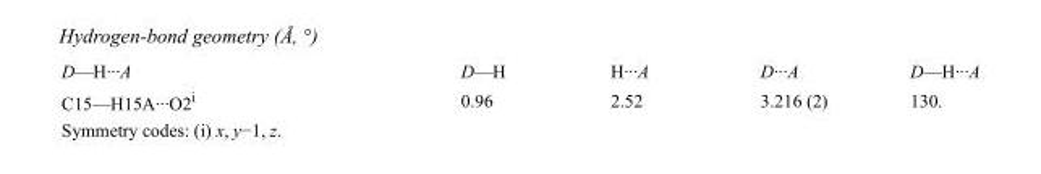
<table><tbody><tr><td>D—H···A</td><td>D—H</td><td>H···A</td><td>D···A</td><td>D—H···A</td></tr><tr><td>C15—H15A···O2<sup>i</sup></td><td>0.96</td><td>2.52</td><td>3.216 (2)</td><td>130.</td></tr></tbody></table>